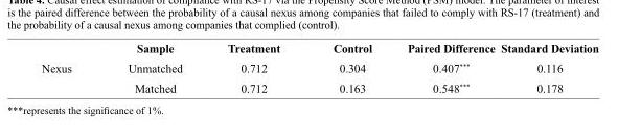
<table><thead><tr><td></td><td>Sample</td><td>Treatment</td><td>Control</td><td>Paired Difference</td><td>Standard Deviation</td></tr></thead><tbody><tr><td rowspan="2">Nexus</td><td>Unmatched</td><td>0.712</td><td>0.304</td><td>0.407***</td><td>0.116</td></tr><tr><td>Matched</td><td>0.712</td><td>0.163</td><td>0.548***</td><td>0.178</td></tr></tbody></table>